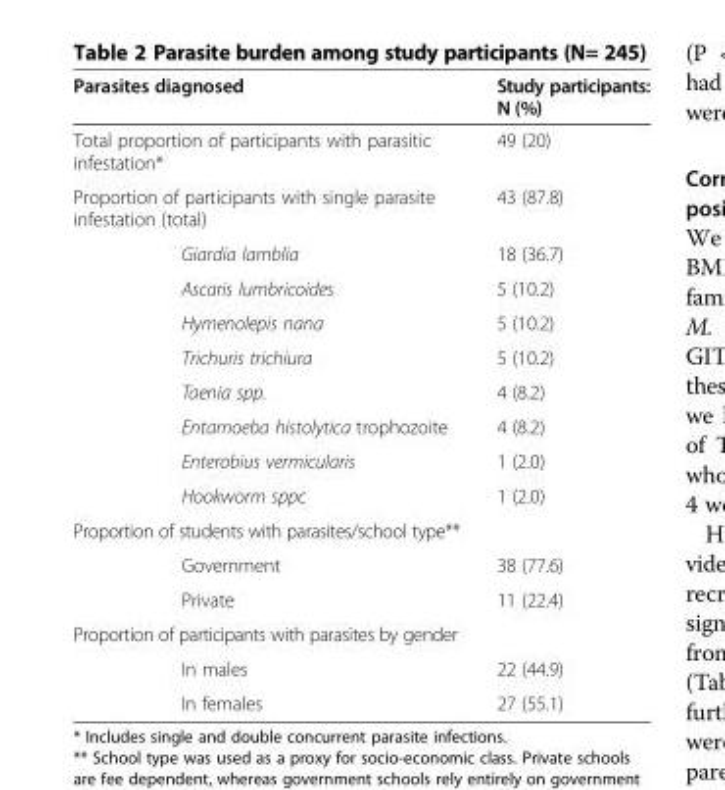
<table><thead><tr><td>Parasites diagnosed</td><td>Study participants: N (%)</td></tr></thead><tbody><tr><td>Total proportion of participants with parasitic infestation*</td><td>49 (20)</td></tr><tr><td>Proportion of participants with single parasite infestation (total)</td><td>43 (87.8)</td></tr><tr><td>Giardia lamblia</td><td>18 (36.7)</td></tr><tr><td>Ascaris lumbricoides</td><td>5 (10.2)</td></tr><tr><td>Hymenolepis nana</td><td>5 (10.2)</td></tr><tr><td>Trichuris trichiura</td><td>5 (10.2)</td></tr><tr><td>Taenia spp.</td><td>4 (8.2)</td></tr><tr><td>Entamoeba histolytica trophozoite</td><td>4 (8.2)</td></tr><tr><td>Enterobius vermicularis</td><td>1 (2.0)</td></tr><tr><td>Hookworm sppc</td><td>1 (2.0)</td></tr><tr><td colspan="2">Proportion of students with parasites/school type**</td></tr><tr><td>Government</td><td>38 (77.6)</td></tr><tr><td>Private</td><td>11 (22.4)</td></tr><tr><td colspan="2">Proportion of participants with parasites by gender</td></tr><tr><td>In males</td><td>22 (44.9)</td></tr><tr><td>In females</td><td>27 (55.1)</td></tr></tbody></table>